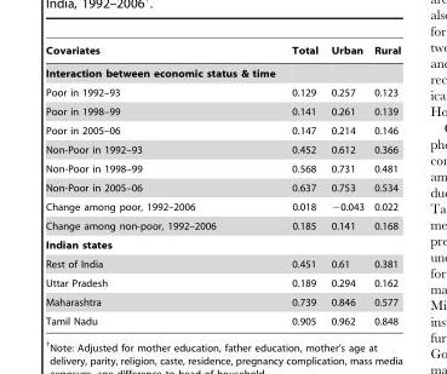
<table><thead><tr><td>Covariates</td><td>Total</td><td>Urban</td><td>Rural</td></tr></thead><tbody><tr><td colspan="4">Interaction between economic status &amp; time</td></tr><tr><td>Poor in 1992–93</td><td>0.129</td><td>0.257</td><td>0.123</td></tr><tr><td>Poor in 1998–99</td><td>0.141</td><td>0.261</td><td>0.139</td></tr><tr><td>Poor in 2005–06</td><td>0.147</td><td>0.214</td><td>0.146</td></tr><tr><td>Non-Poor in 1992–93</td><td>0.452</td><td>0.612</td><td>0.366</td></tr><tr><td>Non-Poor in 1998–99</td><td>0.568</td><td>0.731</td><td>0.481</td></tr><tr><td>Non-Poor in 2005–06</td><td>0.637</td><td>0.753</td><td>0.534</td></tr><tr><td>Change among poor, 1992–2006</td><td>0.018</td><td>−0.043</td><td>0.022</td></tr><tr><td>Change among non-poor, 1992–2006</td><td>0.185</td><td>0.141</td><td>0.168</td></tr><tr><td colspan="4">Indian states</td></tr><tr><td>Rest of India</td><td>0.451</td><td>0.61</td><td>0.381</td></tr><tr><td>Uttar Pradesh</td><td>0.189</td><td>0.294</td><td>0.162</td></tr><tr><td>Maharashtra</td><td>0.739</td><td>0.846</td><td>0.577</td></tr><tr><td>Tamil Nadu</td><td>0.905</td><td>0.962</td><td>0.848</td></tr></tbody></table>